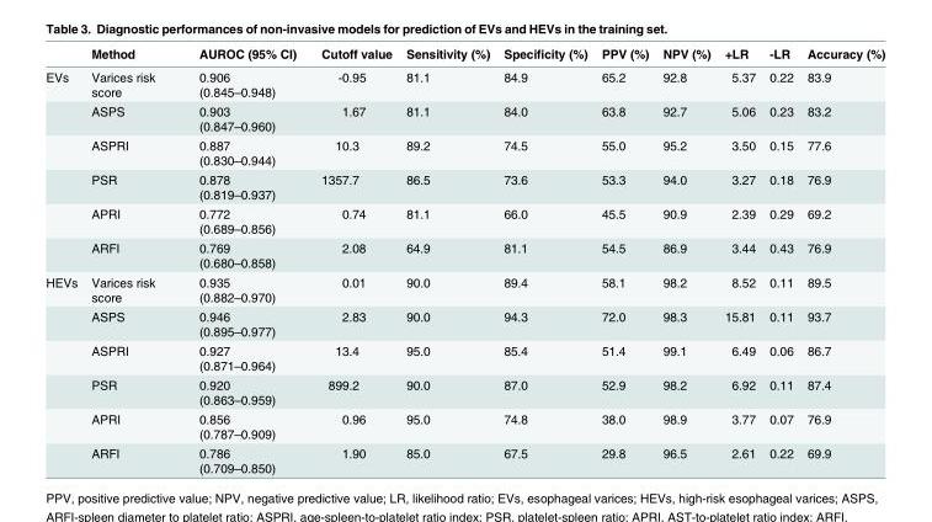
<table><thead><tr><td></td><td>Method</td><td>AUROC (95% CI)</td><td>Cutoff value</td><td>Sensitivity (%)</td><td>Specificity (%)</td><td>PPV (%)</td><td>NPV (%)</td><td>+LR</td><td>-LR</td><td>Accuracy (%)</td></tr></thead><tbody><tr><td rowspan="6">EVs</td><td>Varices risk score</td><td>0.906 (0.845–0.948)</td><td>-0.95</td><td>81.1</td><td>84.9</td><td>65.2</td><td>92.8</td><td>5.37</td><td>0.22</td><td>83.9</td></tr><tr><td>ASPS</td><td>0.903 (0.847–0.960)</td><td>1.67</td><td>81.1</td><td>84.0</td><td>63.8</td><td>92.7</td><td>5.06</td><td>0.23</td><td>83.2</td></tr><tr><td>ASPRI</td><td>0.887 (0.830–0.944)</td><td>10.3</td><td>89.2</td><td>74.5</td><td>55.0</td><td>95.2</td><td>3.50</td><td>0.15</td><td>77.6</td></tr><tr><td>PSR</td><td>0.878 (0.819–0.937)</td><td>1357.7</td><td>86.5</td><td>73.6</td><td>53.3</td><td>94.0</td><td>3.27</td><td>0.18</td><td>76.9</td></tr><tr><td>APRI</td><td>0.772 (0.689–0.856)</td><td>0.74</td><td>81.1</td><td>66.0</td><td>45.5</td><td>90.9</td><td>2.39</td><td>0.29</td><td>69.2</td></tr><tr><td>ARFI</td><td>0.769 (0.680–0.858)</td><td>2.08</td><td>64.9</td><td>81.1</td><td>54.5</td><td>86.9</td><td>3.44</td><td>0.43</td><td>76.9</td></tr><tr><td rowspan="6">HEVs</td><td>Varices risk score</td><td>0.935 (0.882–0.970)</td><td>0.01</td><td>90.0</td><td>89.4</td><td>58.1</td><td>98.2</td><td>8.52</td><td>0.11</td><td>89.5</td></tr><tr><td>ASPS</td><td>0.946 (0.895–0.977)</td><td>2.83</td><td>90.0</td><td>94.3</td><td>72.0</td><td>98.3</td><td>15.81</td><td>0.11</td><td>93.7</td></tr><tr><td>ASPRI</td><td>0.927 (0.871–0.964)</td><td>13.4</td><td>95.0</td><td>85.4</td><td>51.4</td><td>99.1</td><td>6.49</td><td>0.06</td><td>86.7</td></tr><tr><td>PSR</td><td>0.920 (0.863–0.959)</td><td>899.2</td><td>90.0</td><td>87.0</td><td>52.9</td><td>98.2</td><td>6.92</td><td>0.11</td><td>87.4</td></tr><tr><td>APRI</td><td>0.856 (0.787–0.909)</td><td>0.96</td><td>95.0</td><td>74.8</td><td>38.0</td><td>98.9</td><td>3.77</td><td>0.07</td><td>76.9</td></tr><tr><td>ARFI</td><td>0.786 (0.709–0.850)</td><td>1.90</td><td>85.0</td><td>67.5</td><td>29.8</td><td>96.5</td><td>2.61</td><td>0.22</td><td>69.9</td></tr></tbody></table>